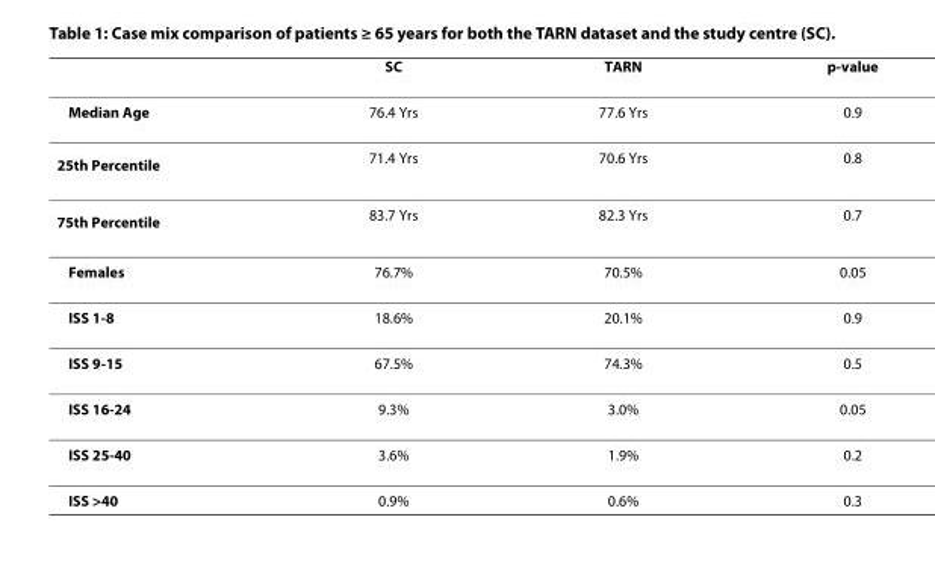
<table><thead><tr><td></td><td>SC</td><td>TARN</td><td>p-value</td></tr></thead><tbody><tr><td>Median Age</td><td>76.4 Yrs</td><td>77.6 Yrs</td><td>0.9</td></tr><tr><td>25<sup>th</sup> Percentile</td><td>71.4 Yrs</td><td>70.6 Yrs</td><td>0.8</td></tr><tr><td>75<sup>th</sup> Percentile</td><td>83.7 Yrs</td><td>82.3 Yrs</td><td>0.7</td></tr><tr><td>Females</td><td>76.7%</td><td>70.5%</td><td>0.05</td></tr><tr><td>ISS 1-8</td><td>18.6%</td><td>20.1%</td><td>0.9</td></tr><tr><td>ISS 9-15</td><td>67.5%</td><td>74.3%</td><td>0.5</td></tr><tr><td>ISS 16-24</td><td>9.3%</td><td>3.0%</td><td>0.05</td></tr><tr><td>ISS 25-40</td><td>3.6%</td><td>1.9%</td><td>0.2</td></tr><tr><td>ISS &gt;40</td><td>0.9%</td><td>0.6%</td><td>0.3</td></tr></tbody></table>